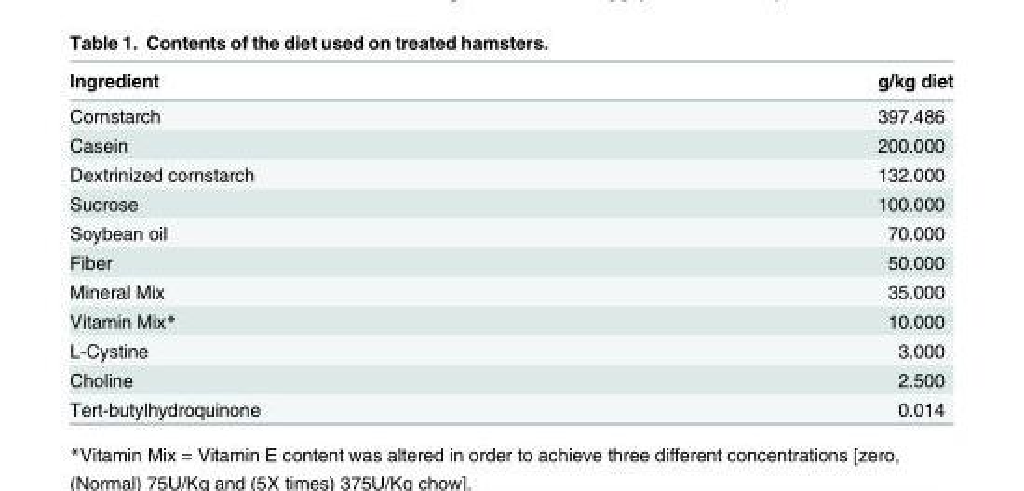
<table><thead><tr><td>Ingredient</td><td>g/kg diet</td></tr></thead><tbody><tr><td>Cornstarch</td><td>397.486</td></tr><tr><td>Casein</td><td>200.000</td></tr><tr><td>Dextrinized cornstarch</td><td>132.000</td></tr><tr><td>Sucrose</td><td>100.000</td></tr><tr><td>Soybean oil</td><td>70.000</td></tr><tr><td>Fiber</td><td>50.000</td></tr><tr><td>Mineral Mix</td><td>35.000</td></tr><tr><td>Vitamin Mix*</td><td>10.000</td></tr><tr><td>L-Cystine</td><td>3.000</td></tr><tr><td>Choline</td><td>2.500</td></tr><tr><td>Tert-butylhydroquinone</td><td>0.014</td></tr></tbody></table>